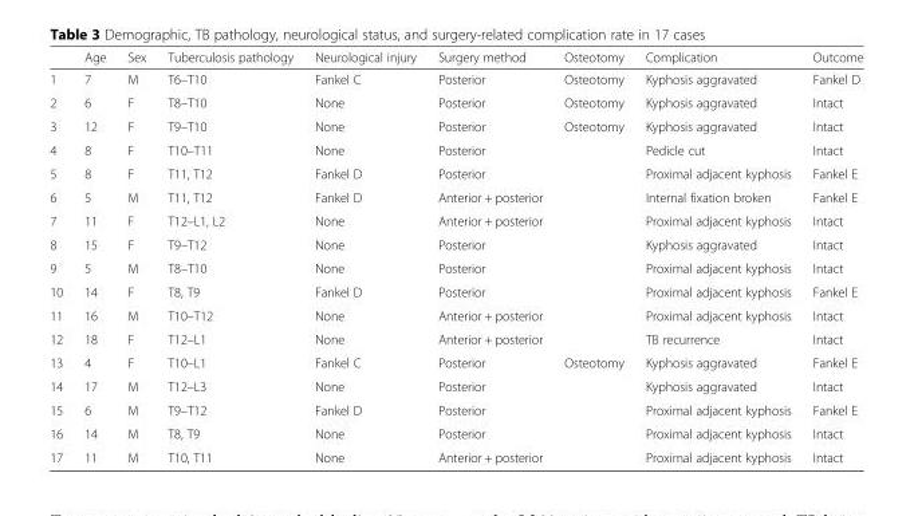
<table><thead><tr><td></td><td>Age</td><td>Sex</td><td>Tuberculosis pathology</td><td>Neurological injury</td><td>Surgery method</td><td>Osteotomy</td><td>Complication</td><td>Outcome</td></tr></thead><tbody><tr><td>1</td><td>7</td><td>M</td><td>T6–T10</td><td>Fankel C</td><td>Posterior</td><td>Osteotomy</td><td>Kyphosis aggravated</td><td>Fankel D</td></tr><tr><td>2</td><td>6</td><td>F</td><td>T8–T10</td><td>None</td><td>Posterior</td><td>Osteotomy</td><td>Kyphosis aggravated</td><td>Intact</td></tr><tr><td>3</td><td>12</td><td>F</td><td>T9–T10</td><td>None</td><td>Posterior</td><td>Osteotomy</td><td>Kyphosis aggravated</td><td>Intact</td></tr><tr><td>4</td><td>8</td><td>F</td><td>T10–T11</td><td>None</td><td>Posterior</td><td></td><td>Pedicle cut</td><td>Intact</td></tr><tr><td>5</td><td>8</td><td>F</td><td>T11, T12</td><td>Fankel D</td><td>Posterior</td><td></td><td>Proximal adjacent kyphosis</td><td>Fankel E</td></tr><tr><td>6</td><td>5</td><td>M</td><td>T11, T12</td><td>Fankel D</td><td>Anterior + posterior</td><td></td><td>Internal fixation broken</td><td>Fankel E</td></tr><tr><td>7</td><td>11</td><td>F</td><td>T12–L1, L2</td><td>None</td><td>Anterior + posterior</td><td></td><td>Proximal adjacent kyphosis</td><td>Intact</td></tr><tr><td>8</td><td>15</td><td>F</td><td>T9–T12</td><td>None</td><td>Posterior</td><td></td><td>Kyphosis aggravated</td><td>Intact</td></tr><tr><td>9</td><td>5</td><td>M</td><td>T8–T10</td><td>None</td><td>Posterior</td><td></td><td>Proximal adjacent kyphosis</td><td>Intact</td></tr><tr><td>10</td><td>14</td><td>F</td><td>T8, T9</td><td>Fankel D</td><td>Posterior</td><td></td><td>Proximal adjacent kyphosis</td><td>Fankel E</td></tr><tr><td>11</td><td>16</td><td>M</td><td>T10–T12</td><td>None</td><td>Anterior + posterior</td><td></td><td>Proximal adjacent kyphosis</td><td>Intact</td></tr><tr><td>12</td><td>18</td><td>F</td><td>T12–L1</td><td>None</td><td>Anterior + posterior</td><td></td><td>TB recurrence</td><td>Intact</td></tr><tr><td>13</td><td>4</td><td>F</td><td>T10–L1</td><td>Fankel C</td><td>Posterior</td><td>Osteotomy</td><td>Kyphosis aggravated</td><td>Fankel E</td></tr><tr><td>14</td><td>17</td><td>M</td><td>T12–L3</td><td>None</td><td>Posterior</td><td></td><td>Kyphosis aggravated</td><td>Intact</td></tr><tr><td>15</td><td>6</td><td>M</td><td>T9–T12</td><td>Fankel D</td><td>Posterior</td><td></td><td>Proximal adjacent kyphosis</td><td>Fankel E</td></tr><tr><td>16</td><td>14</td><td>M</td><td>T8, T9</td><td>None</td><td>Posterior</td><td></td><td>Proximal adjacent kyphosis</td><td>Intact</td></tr><tr><td>17</td><td>11</td><td>M</td><td>T10, T11</td><td>None</td><td>Anterior + posterior</td><td></td><td>Proximal adjacent kyphosis</td><td>Intact</td></tr></tbody></table>